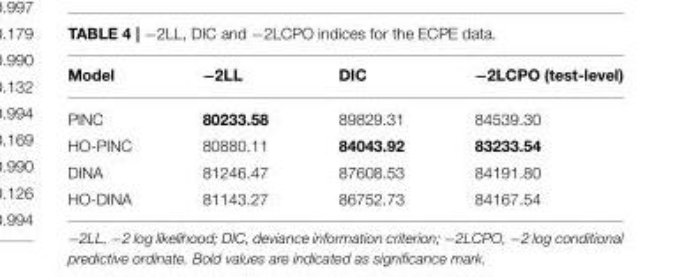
<table><thead><tr><td>Model</td><td>−2LL</td><td>DIC</td><td>−2LCPO (test-level)</td></tr></thead><tbody><tr><td>PINC</td><td>80233.58</td><td>89829.31</td><td>84539.30</td></tr><tr><td>HO-PINC</td><td>80880.11</td><td>84043.92</td><td>83233.54</td></tr><tr><td>DINA</td><td>81246.47</td><td>87608.53</td><td>84191.80</td></tr><tr><td>HO-DINA</td><td>81143.27</td><td>86752.73</td><td>84167.54</td></tr></tbody></table>